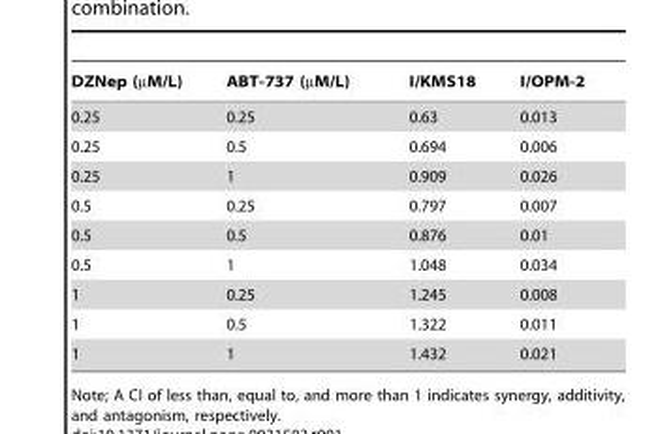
<table><thead><tr><td>DZNep (µM/L)</td><td>ABT-737 (µM/L)</td><td>I/KMS18</td><td>I/OPM-2</td></tr></thead><tbody><tr><td>0.25</td><td>0.25</td><td>0.63</td><td>0.013</td></tr><tr><td>0.25</td><td>0.5</td><td>0.694</td><td>0.006</td></tr><tr><td>0.25</td><td>1</td><td>0.909</td><td>0.026</td></tr><tr><td>0.5</td><td>0.25</td><td>0.797</td><td>0.007</td></tr><tr><td>0.5</td><td>0.5</td><td>0.876</td><td>0.01</td></tr><tr><td>0.5</td><td>1</td><td>1.048</td><td>0.034</td></tr><tr><td>1</td><td>0.25</td><td>1.245</td><td>0.008</td></tr><tr><td>1</td><td>0.5</td><td>1.322</td><td>0.011</td></tr><tr><td>1</td><td>1</td><td>1.432</td><td>0.021</td></tr></tbody></table>